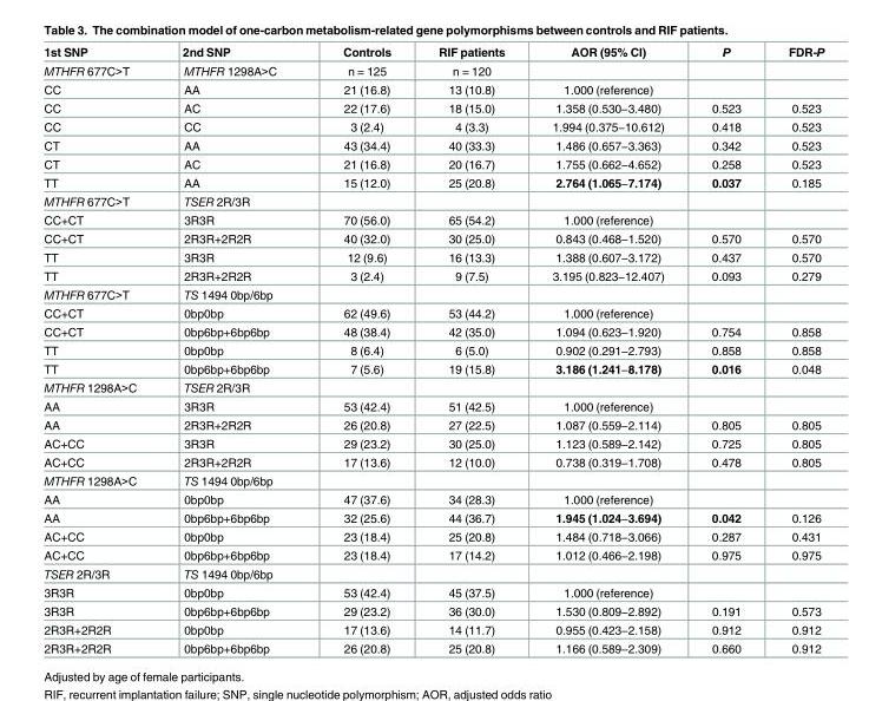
<table><thead><tr><td>1st SNP</td><td>2nd SNP</td><td>Controls</td><td>RIF patients</td><td>AOR (95% CI)</td><td>P</td><td>FDR-P</td></tr></thead><tbody><tr><td>MTHFR 677C&gt;T</td><td>MTHFR 1298A&gt;C</td><td>n = 125</td><td>n = 120</td><td></td><td></td><td></td></tr><tr><td>CC</td><td>AA</td><td>21 (16.8)</td><td>13 (10.8)</td><td>1.000 (reference)</td><td></td><td></td></tr><tr><td>CC</td><td>AC</td><td>22 (17.6)</td><td>18 (15.0)</td><td>1.358 (0.530―3.480)</td><td>0.523</td><td>0.523</td></tr><tr><td>CC</td><td>CC</td><td>3 (2.4)</td><td>4 (3.3)</td><td>1.994 (0.375―10.612)</td><td>0.418</td><td>0.523</td></tr><tr><td>CT</td><td>AA</td><td>43 (34.4)</td><td>40 (33.3)</td><td>1.486 (0.657―3.363)</td><td>0.342</td><td>0.523</td></tr><tr><td>CT</td><td>AC</td><td>21 (16.8)</td><td>20 (16.7)</td><td>1.755 (0.662―4.652)</td><td>0.258</td><td>0.523</td></tr><tr><td>TT</td><td>AA</td><td>15 (12.0)</td><td>25 (20.8)</td><td>2.764 (1.065―7.174)</td><td>0.037</td><td>0.185</td></tr><tr><td>MTHFR 677C&gt;T</td><td>TSER 2R/3R</td><td></td><td></td><td></td><td></td><td></td></tr><tr><td>CC+CT</td><td>3R3R</td><td>70 (56.0)</td><td>65 (54.2)</td><td>1.000 (reference)</td><td></td><td></td></tr><tr><td>CC+CT</td><td>2R3R+2R2R</td><td>40 (32.0)</td><td>30 (25.0)</td><td>0.843 (0.468―1.520)</td><td>0.570</td><td>0.570</td></tr><tr><td>TT</td><td>3R3R</td><td>12 (9.6)</td><td>16 (13.3)</td><td>1.388 (0.607―3.172)</td><td>0.437</td><td>0.570</td></tr><tr><td>TT</td><td>2R3R+2R2R</td><td>3 (2.4)</td><td>9 (7.5)</td><td>3.195 (0.823―12.407)</td><td>0.093</td><td>0.279</td></tr><tr><td>MTHFR 677C&gt;T</td><td>TS 1494 0bp/6bp</td><td></td><td></td><td></td><td></td><td></td></tr><tr><td>CC+CT</td><td>0bp0bp</td><td>62 (49.6)</td><td>53 (44.2)</td><td>1.000 (reference)</td><td></td><td></td></tr><tr><td>CC+CT</td><td>0bp6bp+6bp6bp</td><td>48 (38.4)</td><td>42 (35.0)</td><td>1.094 (0.623―1.920)</td><td>0.754</td><td>0.858</td></tr><tr><td>TT</td><td>0bp0bp</td><td>8 (6.4)</td><td>6 (5.0)</td><td>0.902 (0.291―2.793)</td><td>0.858</td><td>0.858</td></tr><tr><td>TT</td><td>0bp6bp+6bp6bp</td><td>7 (5.6)</td><td>19 (15.8)</td><td>3.186 (1.241―8.178)</td><td>0.016</td><td>0.048</td></tr><tr><td>MTHFR 1298A&gt;C</td><td>TSER 2R/3R</td><td></td><td></td><td></td><td></td><td></td></tr><tr><td>AA</td><td>3R3R</td><td>53 (42.4)</td><td>51 (42.5)</td><td>1.000 (reference)</td><td></td><td></td></tr><tr><td>AA</td><td>2R3R+2R2R</td><td>26 (20.8)</td><td>27 (22.5)</td><td>1.087 (0.559―2.114)</td><td>0.805</td><td>0.805</td></tr><tr><td>AC+CC</td><td>3R3R</td><td>29 (23.2)</td><td>30 (25.0)</td><td>1.123 (0.589―2.142)</td><td>0.725</td><td>0.805</td></tr><tr><td>AC+CC</td><td>2R3R+2R2R</td><td>17 (13.6)</td><td>12 (10.0)</td><td>0.738 (0.319―1.708)</td><td>0.478</td><td>0.805</td></tr><tr><td>MTHFR 1298A&gt;C</td><td>TS 1494 0bp/6bp</td><td></td><td></td><td></td><td></td><td></td></tr><tr><td>AA</td><td>0bp0bp</td><td>47 (37.6)</td><td>34 (28.3)</td><td>1.000 (reference)</td><td></td><td></td></tr><tr><td>AA</td><td>0bp6bp+6bp6bp</td><td>32 (25.6)</td><td>44 (36.7)</td><td>1.945 (1.024―3.694)</td><td>0.042</td><td>0.126</td></tr><tr><td>AC+CC</td><td>0bp0bp</td><td>23 (18.4)</td><td>25 (20.8)</td><td>1.484 (0.718―3.066)</td><td>0.287</td><td>0.431</td></tr><tr><td>AC+CC</td><td>0bp6bp+6bp6bp</td><td>23 (18.4)</td><td>17 (14.2)</td><td>1.012 (0.466―2.198)</td><td>0.975</td><td>0.975</td></tr><tr><td>TSER 2R/3R</td><td>TS 1494 0bp/6bp</td><td></td><td></td><td></td><td></td><td></td></tr><tr><td>3R3R</td><td>0bp0bp</td><td>53 (42.4)</td><td>45 (37.5)</td><td>1.000 (reference)</td><td></td><td></td></tr><tr><td>3R3R</td><td>0bp6bp+6bp6bp</td><td>29 (23.2)</td><td>36 (30.0)</td><td>1.530 (0.809―2.892)</td><td>0.191</td><td>0.573</td></tr><tr><td>2R3R+2R2R</td><td>0bp0bp</td><td>17 (13.6)</td><td>14 (11.7)</td><td>0.955 (0.423―2.158)</td><td>0.912</td><td>0.912</td></tr><tr><td>2R3R+2R2R</td><td>0bp6bp+6bp6bp</td><td>26 (20.8)</td><td>25 (20.8)</td><td>1.166 (0.589―2.309)</td><td>0.660</td><td>0.912</td></tr></tbody></table>